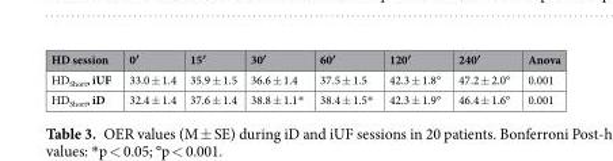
<table><thead><tr><td>HD session</td><td>0′</td><td>15′</td><td>30′</td><td>60′</td><td>120′</td><td>240′</td><td>Anova</td></tr></thead><tbody><tr><td>HD<sub>Short</sub>, iUF</td><td>33.0 ± 1.4</td><td>35.9 ± 1.5</td><td>36.6 ± 1.4</td><td>37.5 ± 1.5</td><td>42.3 ± 1.8°</td><td>47.2 ± 2.0°</td><td>0.001</td></tr><tr><td>HD<sub>Short</sub>, iD</td><td>32.4 ± 1.4</td><td>37.6 ± 1.4</td><td>38.8 ± 1.1*</td><td>38.4 ± 1.5*</td><td>42.3 ± 1.9°</td><td>46.4 ± 1.6°</td><td>0.001</td></tr></tbody></table>